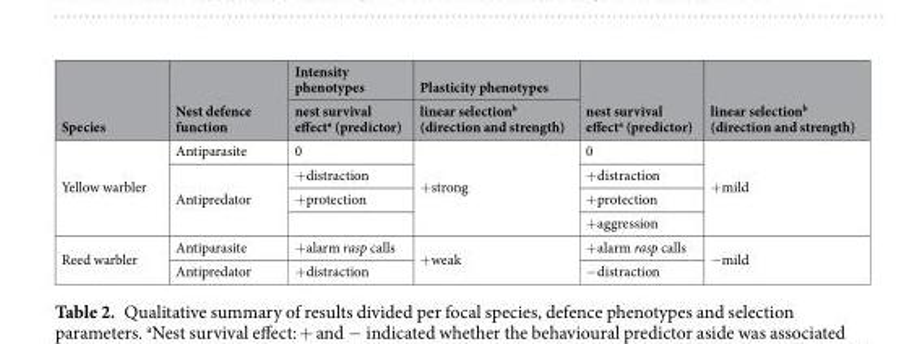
<table><thead><tr><td rowspan="2">Species</td><td rowspan="2">Nest defence function</td><td rowspan="2">Intensity phenotypes nest survival effect<sup>a</sup> (predictor)</td><td rowspan="2">Plasticity phenotypes linear selection<sup>b</sup> (direction and strength)</td><td rowspan="2">nest survival effect<sup>a</sup> (predictor)</td><td rowspan="2">linear selection<sup>b</sup> (direction and strength)</td></tr><tr></tr></thead><tbody><tr><td rowspan="4">Yellow warbler</td><td>Antiparasite</td><td>0</td><td rowspan="4">+strong</td><td>0</td><td rowspan="4">+mild</td></tr><tr><td rowspan="3">Antipredator</td><td>+distraction</td><td>+distraction</td></tr><tr><td>+protection</td><td>+protection</td></tr><tr><td></td><td>+aggression</td></tr><tr><td rowspan="2">Reed warbler</td><td>Antiparasite</td><td>+alarm rasp calls</td><td rowspan="2">+weak</td><td>+alarm rasp calls</td><td rowspan="2">−mild</td></tr><tr><td>Antipredator</td><td>+distraction</td><td>−distraction</td></tr></tbody></table>